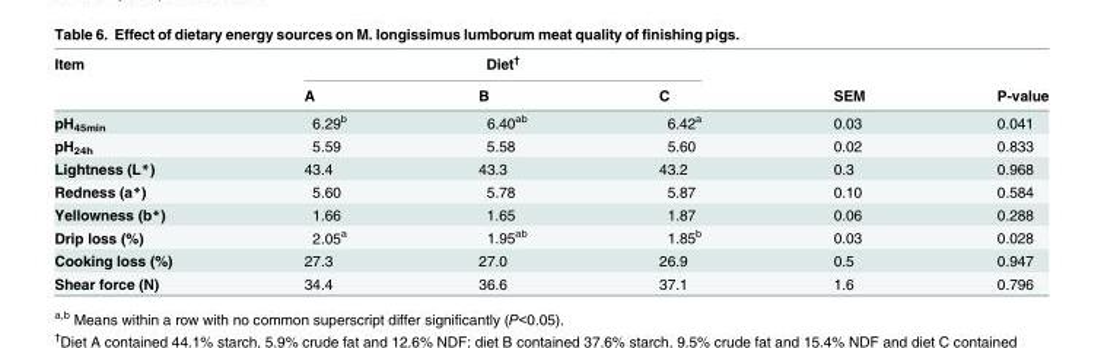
<table><thead><tr><td rowspan="2">Item</td><td colspan="3">Diet<sup>†</sup></td><td rowspan="2">SEM</td><td rowspan="2">P-value</td></tr><tr><td>A</td><td>B</td><td>C</td></tr></thead><tbody><tr><td>pH<sub>45min</sub></td><td>6.29<sup>b</sup></td><td>6.40<sup>ab</sup></td><td>6.42<sup>a</sup></td><td>0.03</td><td>0.041</td></tr><tr><td>pH<sub>24h</sub></td><td>5.59</td><td>5.58</td><td>5.60</td><td>0.02</td><td>0.833</td></tr><tr><td>Lightness (L*)</td><td>43.4</td><td>43.3</td><td>43.2</td><td>0.3</td><td>0.968</td></tr><tr><td>Redness (a*)</td><td>5.60</td><td>5.78</td><td>5.87</td><td>0.10</td><td>0.584</td></tr><tr><td>Yellowness (b*)</td><td>1.66</td><td>1.65</td><td>1.87</td><td>0.06</td><td>0.288</td></tr><tr><td>Drip loss (%)</td><td>2.05<sup>a</sup></td><td>1.95<sup>ab</sup></td><td>1.85<sup>b</sup></td><td>0.03</td><td>0.028</td></tr><tr><td>Cooking loss (%)</td><td>27.3</td><td>27.0</td><td>26.9</td><td>0.5</td><td>0.947</td></tr><tr><td>Shear force (N)</td><td>34.4</td><td>36.6</td><td>37.1</td><td>1.6</td><td>0.796</td></tr></tbody></table>